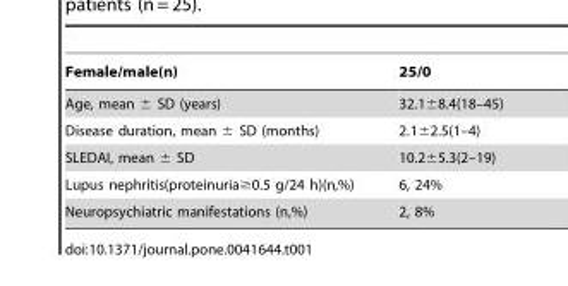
<table><thead><tr><td>Female/male(n)</td><td>25/0</td></tr></thead><tbody><tr><td>Age, mean ± SD (years)</td><td>32.1±8.4(18–45)</td></tr><tr><td>Disease duration, mean ± SD (months)</td><td>2.1±2.5(1–4)</td></tr><tr><td>SLEDAI, mean ± SD</td><td>10.2±5.3(2–19)</td></tr><tr><td>Lupus nephritis(proteinuria≥0.5 g/24 h)(n,%)</td><td>6, 24%</td></tr><tr><td>Neuropsychiatric manifestations (n,%)</td><td>2, 8%</td></tr></tbody></table>